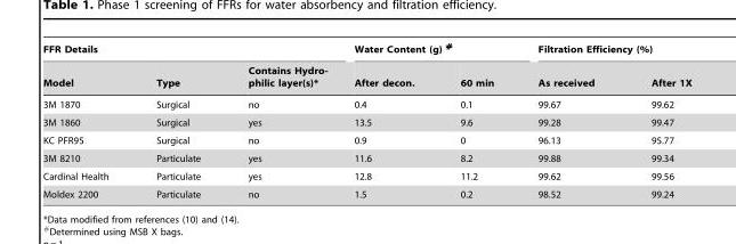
<table><thead><tr><td colspan="3">FFR Details</td><td colspan="2">Water Content (g) #</td><td colspan="2">Filtration Efficiency (%)</td></tr><tr><td>Model</td><td>Type</td><td>Contains Hydro- philic layer(s)*</td><td>After decon.</td><td>60 min</td><td>As received</td><td>After 1X</td></tr></thead><tbody><tr><td>3M 1870</td><td>Surgical</td><td>no</td><td>0.4</td><td>0.1</td><td>99.67</td><td>99.62</td></tr><tr><td>3M 1860</td><td>Surgical</td><td>yes</td><td>13.5</td><td>9.6</td><td>99.28</td><td>99.47</td></tr><tr><td>KC PFR95</td><td>Surgical</td><td>no</td><td>0.9</td><td>0</td><td>96.13</td><td>95.77</td></tr><tr><td>3M 8210</td><td>Particulate</td><td>yes</td><td>11.6</td><td>8.2</td><td>99.88</td><td>99.34</td></tr><tr><td>Cardinal Health</td><td>Particulate</td><td>yes</td><td>12.8</td><td>11.2</td><td>99.62</td><td>99.56</td></tr><tr><td>Moldex 2200</td><td>Particulate</td><td>no</td><td>1.5</td><td>0.2</td><td>98.52</td><td>99.24</td></tr></tbody></table>